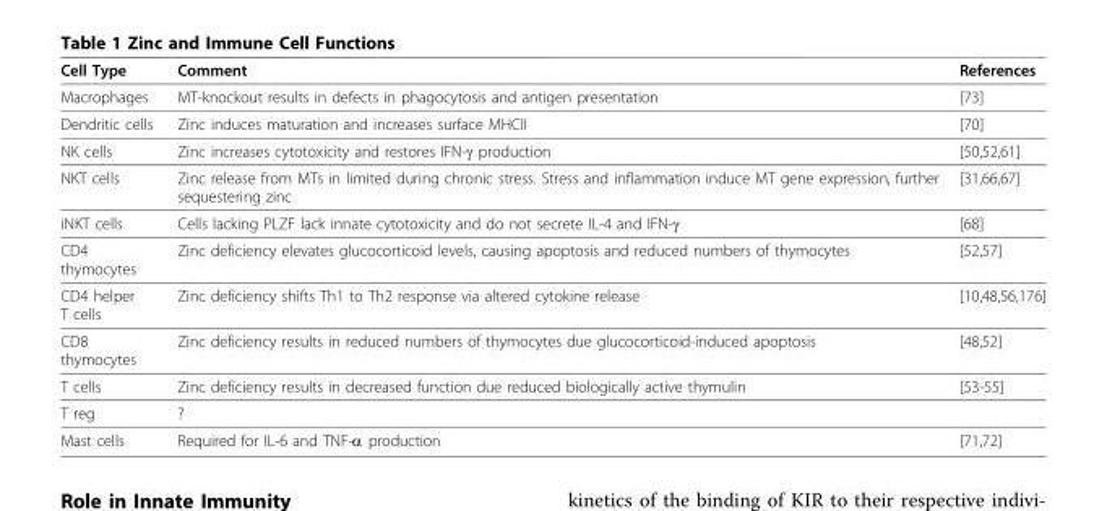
<table><thead><tr><td>Cell Type</td><td>Comment</td><td>References</td></tr></thead><tbody><tr><td>Macrophages</td><td>MT-knockout results in defects in phagocytosis and antigen presentation</td><td>[73]</td></tr><tr><td>Dendritic cells</td><td>Zinc induces maturation and increases surface MHCII</td><td>[70]</td></tr><tr><td>NK cells</td><td>Zinc increases cytotoxicity and restores IFN-γ production</td><td>[50,52,61]</td></tr><tr><td>NKT cells</td><td>Zinc release from MTs in limited during chronic stress. Stress and inflammation induce MT gene expression, further sequestering zinc</td><td>[31,66,67]</td></tr><tr><td>iNKT cells</td><td>Cells lacking PLZF lack innate cytotoxicity and do not secrete IL-4 and IFN-γ</td><td>[68]</td></tr><tr><td>CD4 thymocytes</td><td>Zinc deficiency elevates glucocorticoid levels, causing apoptosis and reduced numbers of thymocytes</td><td>[52,57]</td></tr><tr><td>CD4 helper T cells</td><td>Zinc deficiency shifts Th1 to Th2 response via altered cytokine release</td><td>[10,48,56,176]</td></tr><tr><td>CD8 thymocytes</td><td>Zinc deficiency results in reduced numbers of thymocytes due glucocorticoid-induced apoptosis</td><td>[48,52]</td></tr><tr><td>T cells</td><td>Zinc deficiency results in decreased function due reduced biologically active thymulin</td><td>[53-55]</td></tr><tr><td>T reg</td><td>?</td><td></td></tr><tr><td>Mast cells</td><td>Required for IL-6 and TNF-α production</td><td>[71,72]</td></tr></tbody></table>